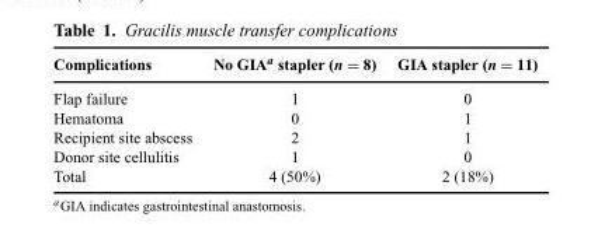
<table><thead><tr><td>Complications</td><td>No GIA<sup>a</sup> stapler (n = 8)</td><td>GIA stapler (n = 11)</td></tr></thead><tbody><tr><td>Flap failure</td><td>1</td><td>0</td></tr><tr><td>Hematoma</td><td>0</td><td>1</td></tr><tr><td>Recipient site abscess</td><td>2</td><td>1</td></tr><tr><td>Donor site cellulitis</td><td>1</td><td>0</td></tr><tr><td>Total</td><td>4 (50%)</td><td>2 (18%)</td></tr></tbody></table>